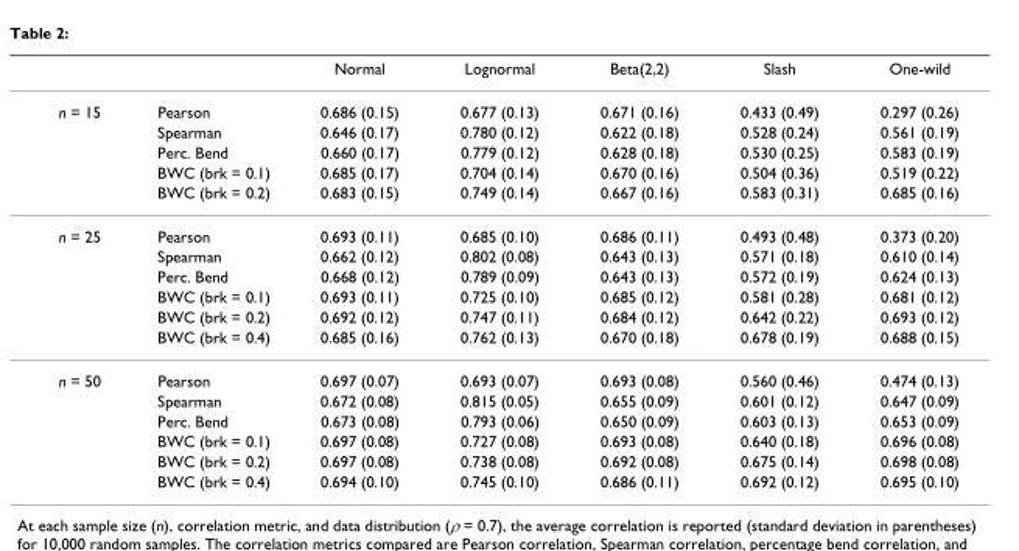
<table><thead><tr><td></td><td></td><td>Normal</td><td>Lognormal</td><td>Beta(2,2)</td><td>Slash</td><td>One-wild</td></tr></thead><tbody><tr><td rowspan="5">n = 15</td><td>Pearson</td><td>0.686 (0.15)</td><td>0.677 (0.13)</td><td>0.671 (0.16)</td><td>0.433 (0.49)</td><td>0.297 (0.26)</td></tr><tr><td>Spearman</td><td>0.646 (0.17)</td><td>0.780 (0.12)</td><td>0.622 (0.18)</td><td>0.528 (0.24)</td><td>0.561 (0.19)</td></tr><tr><td>Perc. Bend</td><td>0.660 (0.17)</td><td>0.779 (0.12)</td><td>0.628 (0.18)</td><td>0.530 (0.25)</td><td>0.583 (0.19)</td></tr><tr><td>BWC (brk = 0.1)</td><td>0.685 (0.17)</td><td>0.704 (0.14)</td><td>0.670 (0.16)</td><td>0.504 (0.36)</td><td>0.519 (0.22)</td></tr><tr><td>BWC (brk = 0.2)</td><td>0.683 (0.15)</td><td>0.749 (0.14)</td><td>0.667 (0.16)</td><td>0.583 (0.31)</td><td>0.685 (0.16)</td></tr><tr><td rowspan="6">n = 25</td><td>Pearson</td><td>0.693 (0.11)</td><td>0.685 (0.10)</td><td>0.686 (0.11)</td><td>0.493 (0.48)</td><td>0.373 (0.20)</td></tr><tr><td>Spearman</td><td>0.662 (0.12)</td><td>0.802 (0.08)</td><td>0.643 (0.13)</td><td>0.571 (0.18)</td><td>0.610 (0.14)</td></tr><tr><td>Perc. Bend</td><td>0.668 (0.12)</td><td>0.789 (0.09)</td><td>0.643 (0.13)</td><td>0.572 (0.19)</td><td>0.624 (0.13)</td></tr><tr><td>BWC (brk = 0.1)</td><td>0.693 (0.11)</td><td>0.725 (0.10)</td><td>0.685 (0.12)</td><td>0.581 (0.28)</td><td>0.681 (0.12)</td></tr><tr><td>BWC (brk = 0.2)</td><td>0.692 (0.12)</td><td>0.747 (0.11)</td><td>0.684 (0.12)</td><td>0.642 (0.22)</td><td>0.693 (0.12)</td></tr><tr><td>BWC (brk = 0.4)</td><td>0.685 (0.16)</td><td>0.762 (0.13)</td><td>0.670 (0.18)</td><td>0.678 (0.19)</td><td>0.688 (0.15)</td></tr><tr><td rowspan="6">n = 50</td><td>Pearson</td><td>0.697 (0.07)</td><td>0.693 (0.07)</td><td>0.693 (0.08)</td><td>0.560 (0.46)</td><td>0.474 (0.13)</td></tr><tr><td>Spearman</td><td>0.672 (0.08)</td><td>0.815 (0.05)</td><td>0.655 (0.09)</td><td>0.601 (0.12)</td><td>0.647 (0.09)</td></tr><tr><td>Perc. Bend</td><td>0.673 (0.08)</td><td>0.793 (0.06)</td><td>0.650 (0.09)</td><td>0.603 (0.13)</td><td>0.653 (0.09)</td></tr><tr><td>BWC (brk = 0.1)</td><td>0.697 (0.08)</td><td>0.727 (0.08)</td><td>0.693 (0.08)</td><td>0.640 (0.18)</td><td>0.696 (0.08)</td></tr><tr><td>BWC (brk = 0.2)</td><td>0.697 (0.08)</td><td>0.738 (0.08)</td><td>0.692 (0.08)</td><td>0.675 (0.14)</td><td>0.698 (0.08)</td></tr><tr><td>BWC (brk = 0.4)</td><td>0.694 (0.10)</td><td>0.745 (0.10)</td><td>0.686 (0.11)</td><td>0.692 (0.12)</td><td>0.695 (0.10)</td></tr></tbody></table>